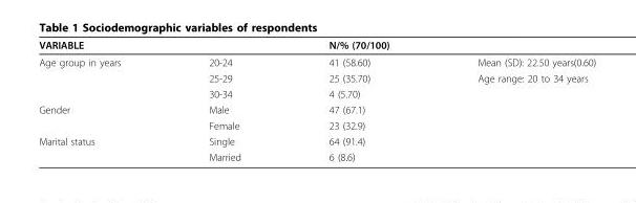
<table><thead><tr><td>VARIABLE</td><td></td><td>N/% (70/100)</td><td></td></tr></thead><tbody><tr><td rowspan="3">Age group in years</td><td>20-24</td><td>41 (58.60)</td><td>Mean (SD): 22.50 years(0.60)</td></tr><tr><td>25-29</td><td>25 (35.70)</td><td>Age range: 20 to 34 years</td></tr><tr><td>30-34</td><td>4 (5.70)</td><td></td></tr><tr><td rowspan="2">Gender</td><td>Male</td><td>47 (67.1)</td><td></td></tr><tr><td>Female</td><td>23 (32.9)</td><td></td></tr><tr><td rowspan="2">Marital status</td><td>Single</td><td>64 (91.4)</td><td></td></tr><tr><td>Married</td><td>6 (8.6)</td><td></td></tr></tbody></table>